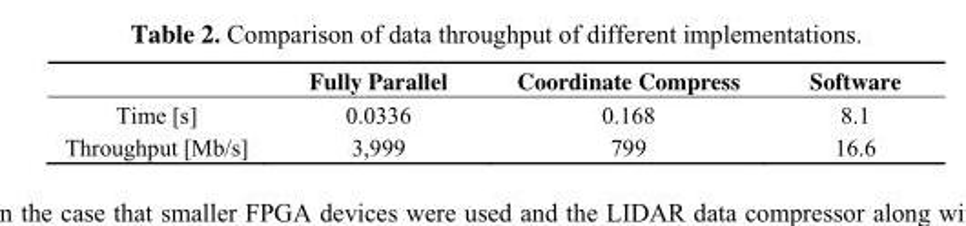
<table><thead><tr><td></td><td>Fully Parallel</td><td>Coordinate Compress</td><td>Software</td></tr></thead><tbody><tr><td>Time [s]</td><td>0.0336</td><td>0.168</td><td>8.1</td></tr><tr><td>Throughput [Mb/s]</td><td>3,999</td><td>799</td><td>16.6</td></tr></tbody></table>